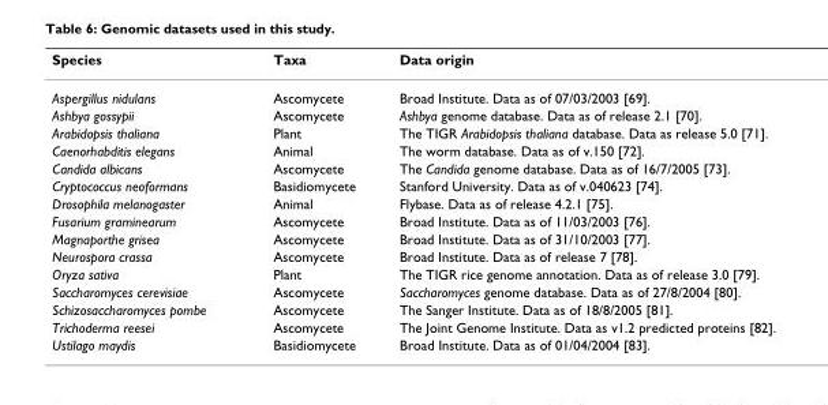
<table><thead><tr><td>Species</td><td>Taxa</td><td>Data origin</td></tr></thead><tbody><tr><td>Aspergillus nidulans</td><td>Ascomycete</td><td>Broad Institute. Data as of 07/03/2003 [69].</td></tr><tr><td>Ashbya gossypii</td><td>Ascomycete</td><td>Ashbya genome database. Data as of release 2.1 [70].</td></tr><tr><td>Arabidopsis thaliana</td><td>Plant</td><td>The TIGR Arabidopsis thaliana database. Data as release 5.0 [71].</td></tr><tr><td>Caenorhabditis elegans</td><td>Animal</td><td>The worm database. Data as of v.150 [72].</td></tr><tr><td>Candida albicans</td><td>Ascomycete</td><td>The Candida genome database. Data as of 16/7/2005 [73].</td></tr><tr><td>Cryptococcus neoformans</td><td>Basidiomycete</td><td>Stanford University. Data as of v.040623 [74].</td></tr><tr><td>Drosophila melanogaster</td><td>Animal</td><td>Flybase. Data as of release 4.2.1 [75].</td></tr><tr><td>Fusarium graminearum</td><td>Ascomycete</td><td>Broad Institute. Data as of 11/03/2003 [76].</td></tr><tr><td>Magnaporthe grisea</td><td>Ascomycete</td><td>Broad Institute. Data as of 31/10/2003 [77].</td></tr><tr><td>Neurospora crassa</td><td>Ascomycete</td><td>Broad Institute. Data as of release 7 [78].</td></tr><tr><td>Oryza sativa</td><td>Plant</td><td>The TIGR rice genome annotation. Data as of release 3.0 [79].</td></tr><tr><td>Saccharomyces cerevisiae</td><td>Ascomycete</td><td>Saccharomyces genome database. Data as of 27/8/2004 [80].</td></tr><tr><td>Schizosaccharomyces pombe</td><td>Ascomycete</td><td>The Sanger Institute. Data as of 18/8/2005 [81].</td></tr><tr><td>Trichoderma reesei</td><td>Ascomycete</td><td>The Joint Genome Institute. Data as v1.2 predicted proteins [82].</td></tr><tr><td>Ustilago maydis</td><td>Basidiomycete</td><td>Broad Institute. Data as of 01/04/2004 [83].</td></tr></tbody></table>